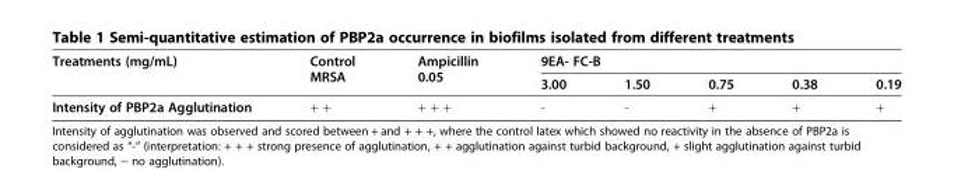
<table><thead><tr><td rowspan="2">Treatments (mg/mL)</td><td rowspan="2">Control MRSA</td><td rowspan="2">Ampicillin 0.05</td><td colspan="5">9EA- FC-B</td></tr><tr><td>3.00</td><td>1.50</td><td>0.75</td><td>0.38</td><td>0.19</td></tr></thead><tbody><tr><td>Intensity of PBP2a Agglutination</td><td>+ +</td><td>+ + +</td><td>-</td><td>-</td><td>+</td><td>+</td><td>+</td></tr></tbody></table>